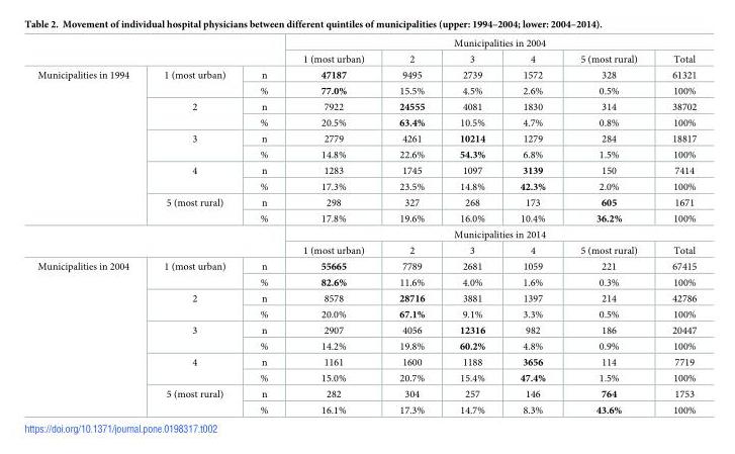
<table><thead><tr><td rowspan="2"></td><td rowspan="2"></td><td rowspan="2"></td><td colspan="6">Municipalities in 2004</td></tr><tr><td>1 (most urban)</td><td>2</td><td>3</td><td>4</td><td>5 (most rural)</td><td>Total</td></tr></thead><tbody><tr><td rowspan="10">Municipalities in 1994</td><td rowspan="2">1 (most urban)</td><td>n</td><td>47187</td><td>9495</td><td>2739</td><td>1572</td><td>328</td><td>61321</td></tr><tr><td>%</td><td>77.0%</td><td>15.5%</td><td>4.5%</td><td>2.6%</td><td>0.5%</td><td>100%</td></tr><tr><td rowspan="2">2</td><td>n</td><td>7922</td><td>24555</td><td>4081</td><td>1830</td><td>314</td><td>38702</td></tr><tr><td>%</td><td>20.5%</td><td>63.4%</td><td>10.5%</td><td>4.7%</td><td>0.8%</td><td>100%</td></tr><tr><td rowspan="2">3</td><td>n</td><td>2779</td><td>4261</td><td>10214</td><td>1279</td><td>284</td><td>18817</td></tr><tr><td>%</td><td>14.8%</td><td>22.6%</td><td>54.3%</td><td>6.8%</td><td>1.5%</td><td>100%</td></tr><tr><td rowspan="2">4</td><td>n</td><td>1283</td><td>1745</td><td>1097</td><td>3139</td><td>150</td><td>7414</td></tr><tr><td>%</td><td>17.3%</td><td>23.5%</td><td>14.8%</td><td>42.3%</td><td>2.0%</td><td>100%</td></tr><tr><td rowspan="2">5 (most rural)</td><td>n</td><td>298</td><td>327</td><td>268</td><td>173</td><td>605</td><td>1671</td></tr><tr><td>%</td><td>17.8%</td><td>19.6%</td><td>16.0%</td><td>10.4%</td><td>36.2%</td><td>100%</td></tr><tr><td rowspan="2" colspan="3"></td><td colspan="6">Municipalities in 2014</td></tr><tr><td>1 (most urban)</td><td>2</td><td>3</td><td>4</td><td>5 (most rural)</td><td>Total</td></tr><tr><td rowspan="10">Municipalities in 2004</td><td rowspan="2">1 (most urban)</td><td>n</td><td>55665</td><td>7789</td><td>2681</td><td>1059</td><td>221</td><td>67415</td></tr><tr><td>%</td><td>82.6%</td><td>11.6%</td><td>4.0%</td><td>1.6%</td><td>0.3%</td><td>100%</td></tr><tr><td rowspan="2">2</td><td>n</td><td>8578</td><td>28716</td><td>3881</td><td>1397</td><td>214</td><td>42786</td></tr><tr><td>%</td><td>20.0%</td><td>67.1%</td><td>9.1%</td><td>3.3%</td><td>0.5%</td><td>100%</td></tr><tr><td rowspan="2">3</td><td>n</td><td>2907</td><td>4056</td><td>12316</td><td>982</td><td>186</td><td>20447</td></tr><tr><td>%</td><td>14.2%</td><td>19.8%</td><td>60.2%</td><td>4.8%</td><td>0.9%</td><td>100%</td></tr><tr><td rowspan="2">4</td><td>n</td><td>1161</td><td>1600</td><td>1188</td><td>3656</td><td>114</td><td>7719</td></tr><tr><td>%</td><td>15.0%</td><td>20.7%</td><td>15.4%</td><td>47.4%</td><td>1.5%</td><td>100%</td></tr><tr><td rowspan="2">5 (most rural)</td><td>n</td><td>282</td><td>304</td><td>257</td><td>146</td><td>764</td><td>1753</td></tr><tr><td>%</td><td>16.1%</td><td>17.3%</td><td>14.7%</td><td>8.3%</td><td>43.6%</td><td>100%</td></tr></tbody></table>